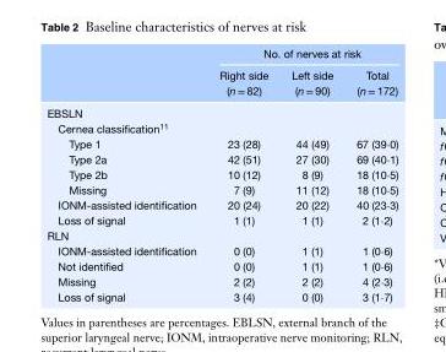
<table><thead><tr><td rowspan="2"></td><td colspan="3">No. of nerves at risk</td></tr><tr><td>Right side (n = 82)</td><td>Left side (n = 90)</td><td>Total (n = 172)</td></tr></thead><tbody><tr><td colspan="4">EBSLN</td></tr><tr><td colspan="4">Cernea classification<sup>11</sup></td></tr><tr><td>Type 1</td><td>23 (28)</td><td>44 (49)</td><td>67 (39⋅0)</td></tr><tr><td>Type 2a</td><td>42 (51)</td><td>27 (30)</td><td>69 (40⋅1)</td></tr><tr><td>Type 2b</td><td>10 (12)</td><td>8 (9)</td><td>18 (10⋅5)</td></tr><tr><td>Missing</td><td>7 (9)</td><td>11 (12)</td><td>18 (10⋅5)</td></tr><tr><td>IONM-assisted identification</td><td>20 (24)</td><td>20 (22)</td><td>40 (23⋅3)</td></tr><tr><td>Loss of signal</td><td>1 (1)</td><td>1 (1)</td><td>2 (1⋅2)</td></tr><tr><td colspan="4">RLN</td></tr><tr><td>IONM-assisted identification</td><td>0 (0)</td><td>1 (1)</td><td>1 (0⋅6)</td></tr><tr><td>Not identified</td><td>0 (0)</td><td>1 (1)</td><td>1 (0⋅6)</td></tr><tr><td>Missing</td><td>2 (2)</td><td>2 (2)</td><td>4 (2⋅3)</td></tr><tr><td>Loss of signal</td><td>3 (4)</td><td>0 (0)</td><td>3 (1⋅7)</td></tr></tbody></table>